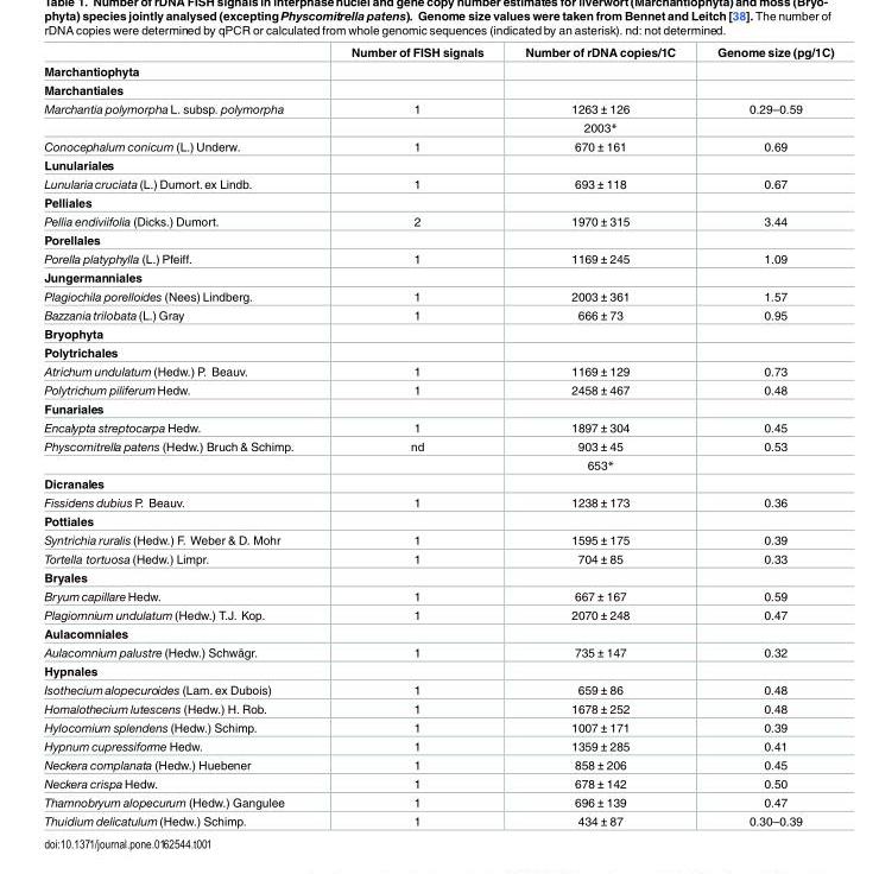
<table><thead><tr><td></td><td>Number of FISH signals</td><td>Number of rDNA copies/1C</td><td>Genome size (pg/1C)</td></tr></thead><tbody><tr><td colspan="4">Marchantiophyta</td></tr><tr><td colspan="4">Marchantiales</td></tr><tr><td rowspan="2">Marchantia polymorpha L. subsp. polymorpha</td><td>1</td><td>1263 ± 126</td><td>0.29–0.59</td></tr><tr><td></td><td>2003*</td><td></td></tr><tr><td>Conocephalum conicum (L.) Underw.</td><td>1</td><td>670 ± 161</td><td>0.69</td></tr><tr><td colspan="4">Lunulariales</td></tr><tr><td>Lunularia cruciata(L.) Dumort.ex Lindb.</td><td>1</td><td>693 ± 118</td><td>0.67</td></tr><tr><td colspan="4">Pelliales</td></tr><tr><td>Pellia endiviifolia (Dicks.) Dumort.</td><td>2</td><td>1970 ± 315</td><td>3.44</td></tr><tr><td colspan="4">Porellales</td></tr><tr><td>Porella platyphylla (L.) Pfeiff.</td><td>1</td><td>1169 ± 245</td><td>1.09</td></tr><tr><td colspan="4">Jungermanniales</td></tr><tr><td>Plagiochila porelloides (Nees) Lindberg.</td><td>1</td><td>2003 ± 361</td><td>1.57</td></tr><tr><td>Bazzania trilobata(L.) Gray</td><td>1</td><td>666 ± 73</td><td>0.95</td></tr><tr><td colspan="4">Bryophyta</td></tr><tr><td colspan="4">Polytrichales</td></tr><tr><td>Atrichum undulatum (Hedw.) P. Beauv.</td><td>1</td><td>1169 ± 129</td><td>0.73</td></tr><tr><td>Polytrichum piliferumHedw.</td><td>1</td><td>2458 ± 467</td><td>0.48</td></tr><tr><td colspan="4">Funariales</td></tr><tr><td>Encalypta streptocarpa Hedw.</td><td>1</td><td>1897 ± 304</td><td>0.45</td></tr><tr><td rowspan="2">Physcomitrella patens (Hedw.) Bruch &amp; Schimp.</td><td>nd</td><td>903 ± 45</td><td>0.53</td></tr><tr><td></td><td>653*</td><td></td></tr><tr><td colspan="4">Dicranales</td></tr><tr><td>Fissidens dubius P. Beauv.</td><td>1</td><td>1238 ± 173</td><td>0.36</td></tr><tr><td colspan="4">Pottiales</td></tr><tr><td>Syntrichia ruralis (Hedw.) F. Weber &amp; D. Mohr</td><td>1</td><td>1595 ± 175</td><td>0.39</td></tr><tr><td>Tortella tortuosa (Hedw.) Limpr.</td><td>1</td><td>704 ± 85</td><td>0.33</td></tr><tr><td colspan="4">Bryales</td></tr><tr><td>Bryumcapillare Hedw.</td><td>1</td><td>667 ± 167</td><td>0.59</td></tr><tr><td>Plagiomnium undulatum (Hedw.) T.J. Kop.</td><td>1</td><td>2070 ± 248</td><td>0.47</td></tr><tr><td colspan="4">Aulacomniales</td></tr><tr><td>Aulacomnium palustre (Hedw.) Schwägr.</td><td>1</td><td>735 ± 147</td><td>0.32</td></tr><tr><td colspan="4">Hypnales</td></tr><tr><td>Isothecium alopecuroides (Lam. ex Dubois)</td><td>1</td><td>659 ± 86</td><td>0.48</td></tr><tr><td>Homalothecium lutescens (Hedw.) H. Rob.</td><td>1</td><td>1678 ± 252</td><td>0.48</td></tr><tr><td>Hylocomium splendens (Hedw.) Schimp.</td><td>1</td><td>1007 ± 171</td><td>0.39</td></tr><tr><td>Hypnum cupressiforme Hedw.</td><td>1</td><td>1359 ± 285</td><td>0.41</td></tr><tr><td>Neckera complanata (Hedw.) Huebener</td><td>1</td><td>858 ± 206</td><td>0.45</td></tr><tr><td>Neckera crispa Hedw.</td><td>1</td><td>678 ± 142</td><td>0.50</td></tr><tr><td>Thamnobryum alopecurum (Hedw.) Gangulee</td><td>1</td><td>696 ± 139</td><td>0.47</td></tr><tr><td>Thuidium delicatulum (Hedw.) Schimp.</td><td>1</td><td>434 ± 87</td><td>0.30–0.39</td></tr></tbody></table>